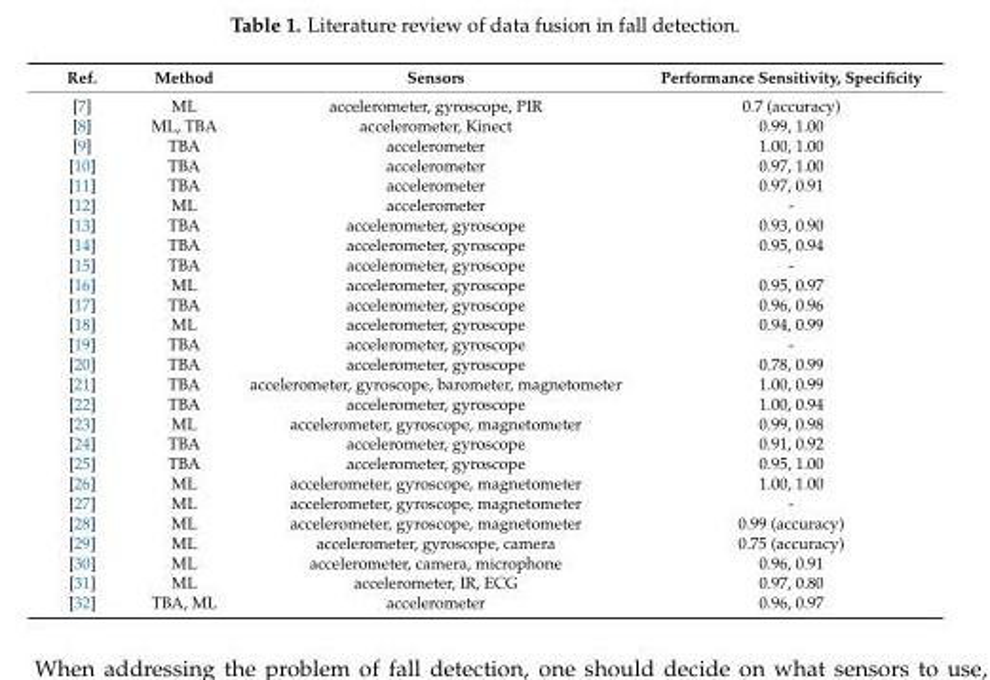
<table><thead><tr><td>Ref.</td><td>Method</td><td>Sensors</td><td>Performance Sensitivity, Specificity</td></tr></thead><tbody><tr><td>[7]</td><td>ML</td><td>accelerometer, gyroscope, PIR</td><td>0.7 (accuracy)</td></tr><tr><td>[8]</td><td>ML, TBA</td><td>accelerometer, Kinect</td><td>0.99, 1.00</td></tr><tr><td>[9]</td><td>TBA</td><td>accelerometer</td><td>1.00, 1.00</td></tr><tr><td>[10]</td><td>TBA</td><td>accelerometer</td><td>0.97, 1.00</td></tr><tr><td>[11]</td><td>TBA</td><td>accelerometer</td><td>0.97, 0.91</td></tr><tr><td>[12]</td><td>ML</td><td>accelerometer</td><td>-</td></tr><tr><td>[13]</td><td>TBA</td><td>accelerometer, gyroscope</td><td>0.93, 0.90</td></tr><tr><td>[14]</td><td>TBA</td><td>accelerometer, gyroscope</td><td>0.95, 0.94</td></tr><tr><td>[15]</td><td>TBA</td><td>accelerometer, gyroscope</td><td>-</td></tr><tr><td>[16]</td><td>ML</td><td>accelerometer, gyroscope</td><td>0.95, 0.97</td></tr><tr><td>[17]</td><td>TBA</td><td>accelerometer, gyroscope</td><td>0.96, 0.96</td></tr><tr><td>[18]</td><td>ML</td><td>accelerometer, gyroscope</td><td>0.94, 0.99</td></tr><tr><td>[19]</td><td>TBA</td><td>accelerometer, gyroscope</td><td>-</td></tr><tr><td>[20]</td><td>TBA</td><td>accelerometer, gyroscope</td><td>0.78, 0.99</td></tr><tr><td>[21]</td><td>TBA</td><td>accelerometer, gyroscope, barometer, magnetometer</td><td>1.00, 0.99</td></tr><tr><td>[22]</td><td>TBA</td><td>accelerometer, gyroscope</td><td>1.00, 0.94</td></tr><tr><td>[23]</td><td>ML</td><td>accelerometer, gyroscope, magnetometer</td><td>0.99, 0.98</td></tr><tr><td>[24]</td><td>TBA</td><td>accelerometer, gyroscope</td><td>0.91, 0.92</td></tr><tr><td>[25]</td><td>TBA</td><td>accelerometer, gyroscope</td><td>0.95, 1.00</td></tr><tr><td>[26]</td><td>ML</td><td>accelerometer, gyroscope, magnetometer</td><td>1.00, 1.00</td></tr><tr><td>[27]</td><td>ML</td><td>accelerometer, gyroscope, magnetometer</td><td>-</td></tr><tr><td>[28]</td><td>ML</td><td>accelerometer, gyroscope, magnetometer</td><td>0.99 (accuracy)</td></tr><tr><td>[29]</td><td>ML</td><td>accelerometer, gyroscope, camera</td><td>0.75 (accuracy)</td></tr><tr><td>[30]</td><td>ML</td><td>accelerometer, camera, microphone</td><td>0.96, 0.91</td></tr><tr><td>[31]</td><td>ML</td><td>accelerometer, IR, ECG</td><td>0.97, 0.80</td></tr><tr><td>[32]</td><td>TBA, ML</td><td>accelerometer</td><td>0.96, 0.97</td></tr></tbody></table>